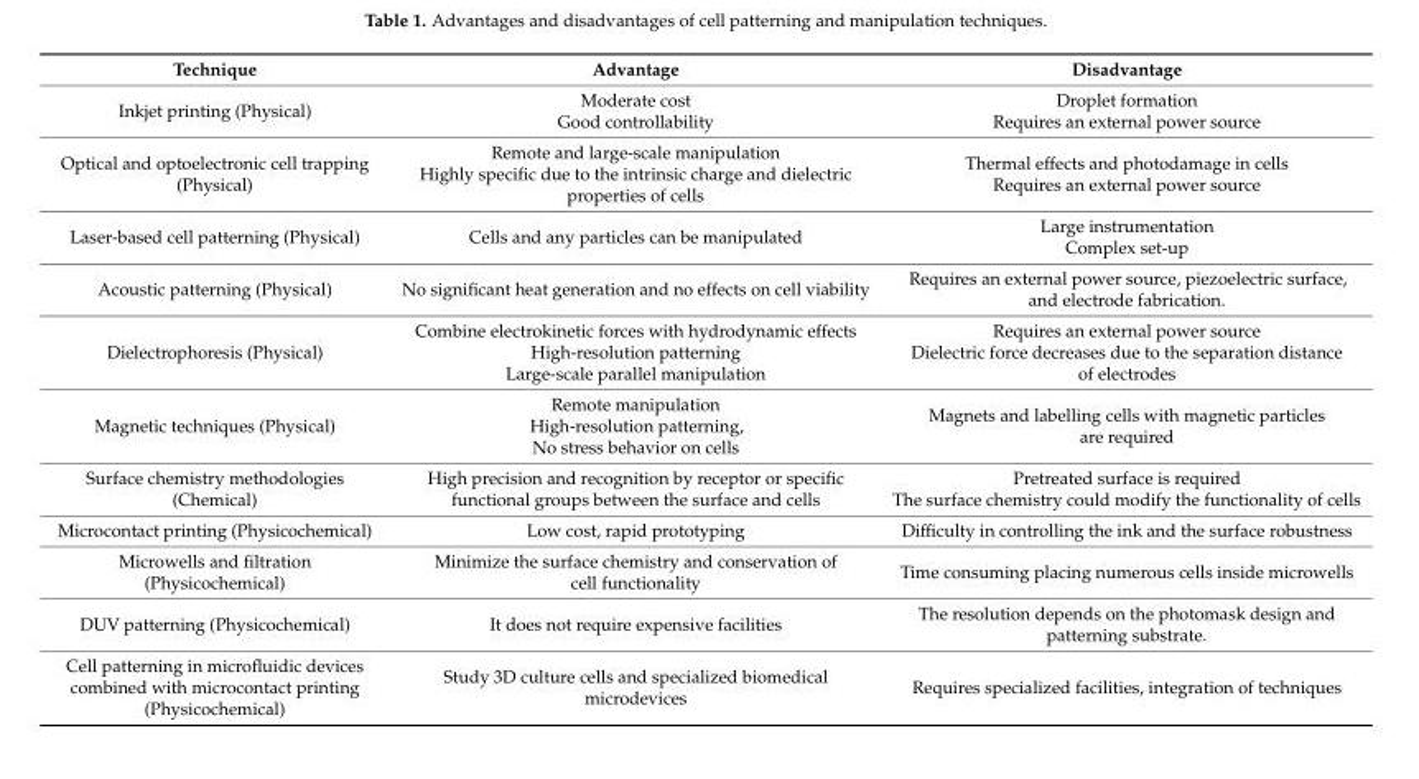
<table><thead><tr><td>Technique</td><td>Advantage</td><td>Disadvantage</td></tr></thead><tbody><tr><td>Inkjet printing (Physical)</td><td>Moderate cost Good controllability</td><td>Droplet formation Requires an external power source</td></tr><tr><td>Optical and optoelectronic cell trapping (Physical)</td><td>Remote and large-scale manipulation Highly specific due to the intrinsic charge and dielectric properties of cells</td><td>Thermal effects and photodamage in cells Requires an external power source</td></tr><tr><td>Laser-based cell patterning (Physical)</td><td>Cells and any particles can be manipulated</td><td>Large instrumentation Complex set-up</td></tr><tr><td>Acoustic patterning (Physical)</td><td>No significant heat generation and no effects on cell viability</td><td>Requires an external power source, piezoelectric surface, and electrode fabrication.</td></tr><tr><td>Dielectrophoresis (Physical)</td><td>Combine electrokinetic forces with hydrodynamic effects High-resolution patterning Large-scale parallel manipulation</td><td>Requires an external power source Dielectric force decreases due to the separation distance of electrodes</td></tr><tr><td>Magnetic techniques (Physical)</td><td>Remote manipulation High-resolution patterning, No stress behavior on cells</td><td>Magnets and labelling cells with magnetic particles are required</td></tr><tr><td>Surface chemistry methodologies (Chemical)</td><td>High precision and recognition by receptor or specific functional groups between the surface and cells</td><td>Pretreated surface is required The surface chemistry could modify the functionality of cells</td></tr><tr><td>Microcontact printing (Physicochemical)</td><td>Low cost, rapid prototyping</td><td>Difficulty in controlling the ink and the surface robustness</td></tr><tr><td>Microwells and filtration (Physicochemical)</td><td>Minimize the surface chemistry and conservation of cell functionality</td><td>Time consuming placing numerous cells inside microwells</td></tr><tr><td>DUV patterning (Physicochemical)</td><td>It does not require expensive facilities</td><td>The resolution depends on the photomask design and patterning substrate.</td></tr><tr><td>Cell patterning in microfluidic devices combined with microcontact printing (Physicochemical)</td><td>Study 3D culture cells and specialized biomedical microdevices</td><td>Requires specialized facilities, integration of techniques</td></tr></tbody></table>